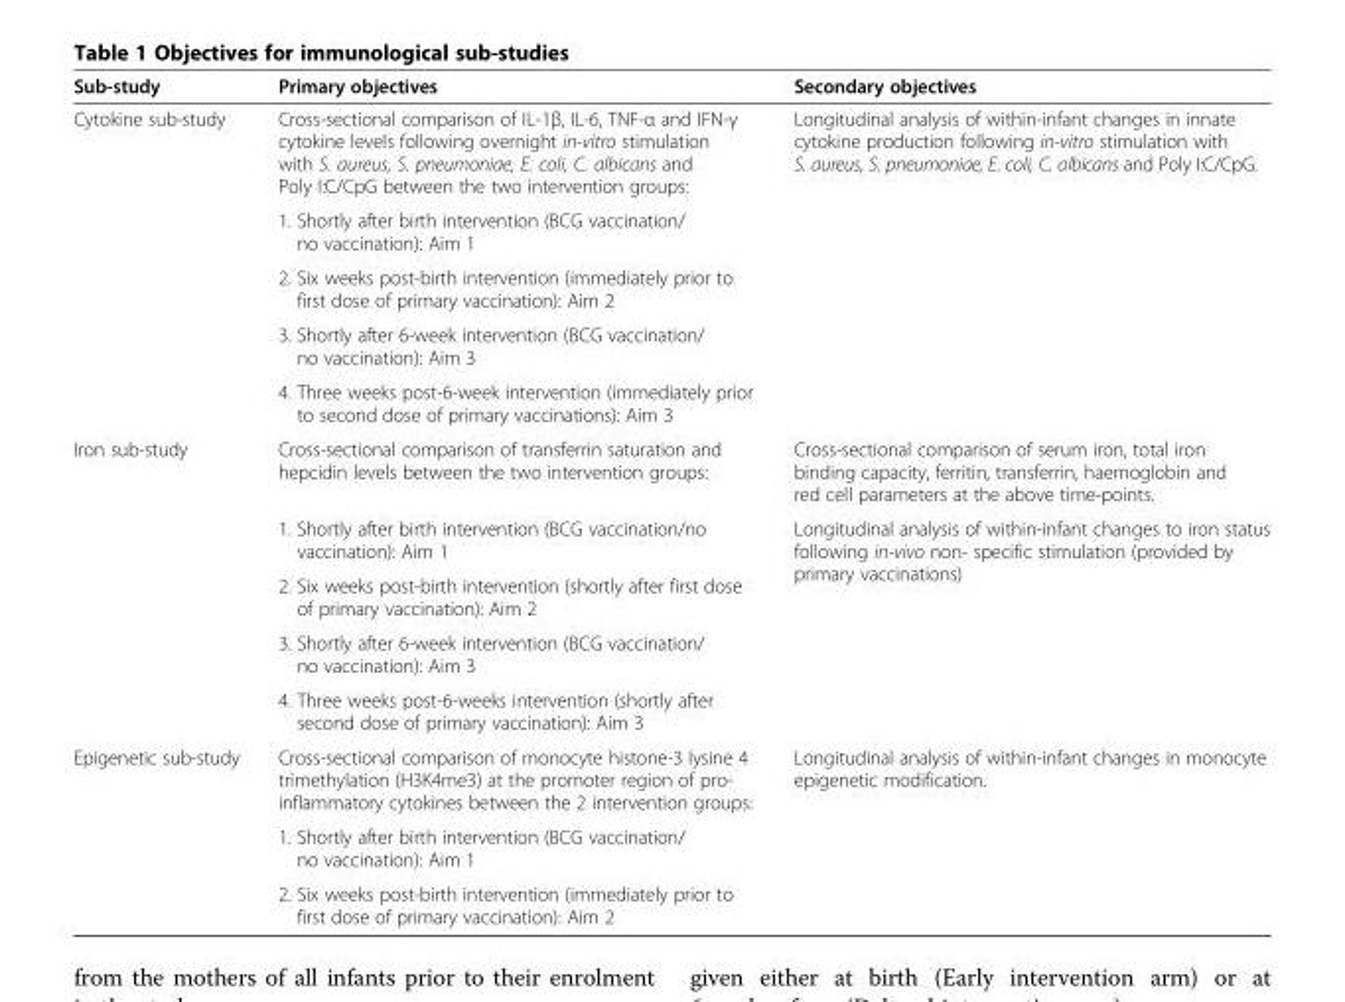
<table><thead><tr><td>Sub-study</td><td>Primary objectives</td><td>Secondary objectives</td></tr></thead><tbody><tr><td rowspan="5">Cytokine sub-study</td><td>Cross-sectional comparison of IL-1β, IL-6, TNF-α and IFN-γ cytokine levels following overnight in-vitro stimulation with S. aureus, S. pneumoniae, E. coli, C. albicans and Poly I:C/CpG between the two intervention groups:</td><td rowspan="5">Longitudinal analysis of within-infant changes in innate cytokine production following in-vitro stimulation with S. aureus, S. pneumoniae, E. coli, C. albicans and Poly I:C/CpG.</td></tr><tr><td>1. Shortly after birth intervention (BCG vaccination/ no vaccination): Aim 1</td></tr><tr><td>2. Six weeks post-birth intervention (immediately prior to first dose of primary vaccination): Aim 2</td></tr><tr><td>3. Shortly after 6-week intervention (BCG vaccination/ no vaccination): Aim 3</td></tr><tr><td>4. Three weeks post-6-week intervention (immediately prior to second dose of primary vaccinations): Aim 3</td></tr><tr><td rowspan="5">Iron sub-study</td><td>Cross-sectional comparison of transferrin saturation and hepcidin levels between the two intervention groups:</td><td>Cross-sectional comparison of serum iron, total iron binding capacity, ferritin, transferrin, haemoglobin and red cell parameters at the above time-points.</td></tr><tr><td>1. Shortly after birth intervention (BCG vaccination/no vaccination): Aim 1</td><td rowspan="4">Longitudinal analysis of within-infant changes to iron status following in-vivo non- specific stimulation (provided by primary vaccinations)</td></tr><tr><td>2. Six weeks post-birth intervention (shortly after first dose of primary vaccination): Aim 2</td></tr><tr><td>3. Shortly after 6-week intervention (BCG vaccination/ no vaccination): Aim 3</td></tr><tr><td>4. Three weeks post-6-weeks intervention (shortly after second dose of primary vaccination): Aim 3</td></tr><tr><td rowspan="3">Epigenetic sub-study</td><td>Cross-sectional comparison of monocyte histone-3 lysine 4 trimethylation (H3K4me3) at the promoter region of pro- inflammatory cytokines between the 2 intervention groups:</td><td rowspan="3">Longitudinal analysis of within-infant changes in monocyte epigenetic modification.</td></tr><tr><td>1. Shortly after birth intervention (BCG vaccination/ no vaccination): Aim 1</td></tr><tr><td>2. Six weeks post-birth intervention (immediately prior to first dose of primary vaccination): Aim 2</td></tr></tbody></table>